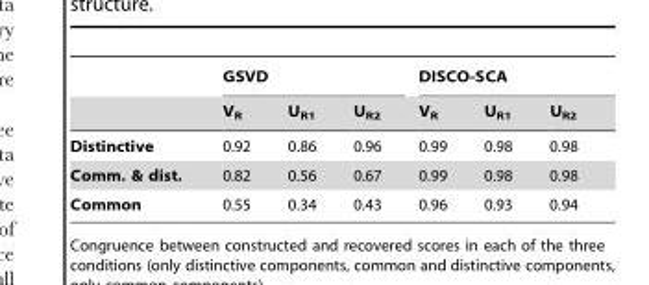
<table><thead><tr><td rowspan="2"></td><td colspan="3">GSVD</td><td colspan="3">DISCO-SCA</td></tr><tr><td>V<sub>R</sub></td><td>U<sub>R1</sub></td><td>U<sub>R2</sub></td><td>V<sub>R</sub></td><td>U<sub>R1</sub></td><td>U<sub>R2</sub></td></tr></thead><tbody><tr><td>Distinctive</td><td>0.92</td><td>0.86</td><td>0.96</td><td>0.99</td><td>0.98</td><td>0.98</td></tr><tr><td>Comm. &amp; dist.</td><td>0.82</td><td>0.56</td><td>0.67</td><td>0.99</td><td>0.98</td><td>0.98</td></tr><tr><td>Common</td><td>0.55</td><td>0.34</td><td>0.43</td><td>0.96</td><td>0.93</td><td>0.94</td></tr></tbody></table>